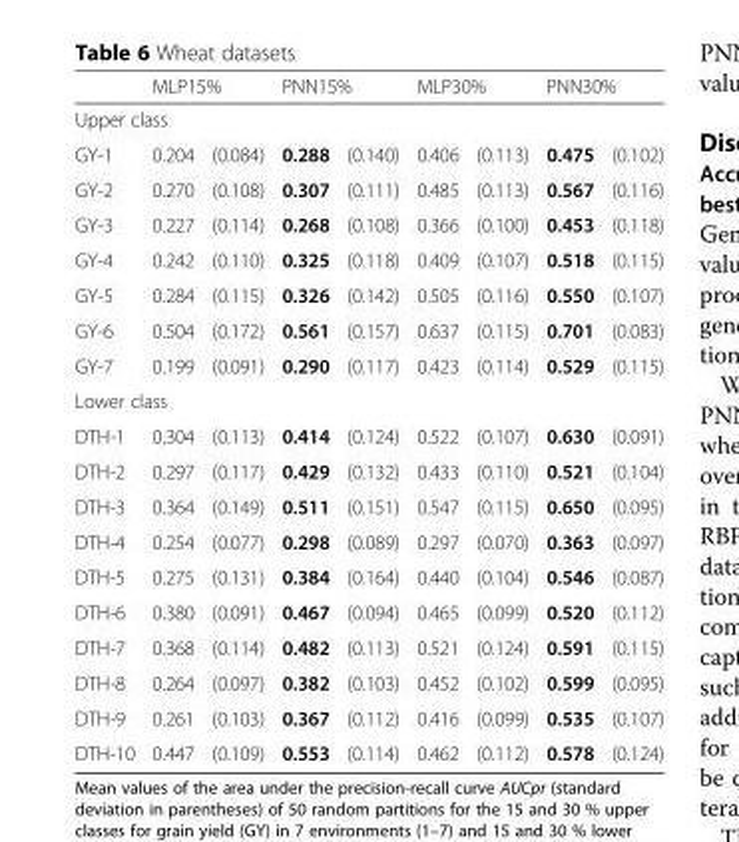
<table><thead><tr><td></td><td colspan="2">MLP15%</td><td colspan="2">PNN15%</td><td colspan="2">MLP30%</td><td colspan="2">PNN30%</td></tr><tr><td colspan="9">Upper class</td></tr><tr><td>GY-1</td><td>0.204</td><td>(0.084)</td><td>0.288</td><td>(0.140)</td><td>0.406</td><td>(0.113)</td><td>0.475</td><td>(0.102)</td></tr></thead><tbody><tr><td>GY-2</td><td>0.270</td><td>(0.108)</td><td>0.307</td><td>(0.111)</td><td>0.485</td><td>(0.113)</td><td>0.567</td><td>(0.116)</td></tr><tr><td>GY-3</td><td>0.227</td><td>(0.114)</td><td>0.268</td><td>(0.108)</td><td>0.366</td><td>(0.100)</td><td>0.453</td><td>(0.118)</td></tr><tr><td>GY-4</td><td>0.242</td><td>(0.110)</td><td>0.325</td><td>(0.118)</td><td>0.409</td><td>(0.107)</td><td>0.518</td><td>(0.115)</td></tr><tr><td>GY-5</td><td>0.284</td><td>(0.115)</td><td>0.326</td><td>(0.142)</td><td>0.505</td><td>(0.116)</td><td>0.550</td><td>(0.107)</td></tr><tr><td>GY-6</td><td>0.504</td><td>(0.172)</td><td>0.561</td><td>(0.157)</td><td>0.637</td><td>(0.115)</td><td>0.701</td><td>(0.083)</td></tr><tr><td>GY-7</td><td>0.199</td><td>(0.091)</td><td>0.290</td><td>(0.117)</td><td>0.423</td><td>(0.114)</td><td>0.529</td><td>(0.115)</td></tr><tr><td colspan="9">Lower class</td></tr><tr><td>DTH-1</td><td>0.304</td><td>(0.113)</td><td>0.414</td><td>(0.124)</td><td>0.522</td><td>(0.107)</td><td>0.630</td><td>(0.091)</td></tr><tr><td>DTH-2</td><td>0.297</td><td>(0.117)</td><td>0.429</td><td>(0.132)</td><td>0.433</td><td>(0.110)</td><td>0.521</td><td>(0.104)</td></tr><tr><td>DTH-3</td><td>0.364</td><td>(0.149)</td><td>0.511</td><td>(0.151)</td><td>0.547</td><td>(0.115)</td><td>0.650</td><td>(0.095)</td></tr><tr><td>DTH-4</td><td>0.254</td><td>(0.077)</td><td>0.298</td><td>(0.089)</td><td>0.297</td><td>(0.070)</td><td>0.363</td><td>(0.097)</td></tr><tr><td>DTH-5</td><td>0.275</td><td>(0.131)</td><td>0.384</td><td>(0.164)</td><td>0.440</td><td>(0.104)</td><td>0.546</td><td>(0.087)</td></tr><tr><td>DTH-6</td><td>0.380</td><td>(0.091)</td><td>0.467</td><td>(0.094)</td><td>0.465</td><td>(0.099)</td><td>0.520</td><td>(0.112)</td></tr><tr><td>DTH-7</td><td>0.368</td><td>(0.114)</td><td>0.482</td><td>(0.113)</td><td>0.521</td><td>(0.124)</td><td>0.591</td><td>(0.115)</td></tr><tr><td>DTH-8</td><td>0.264</td><td>(0.097)</td><td>0.382</td><td>(0.103)</td><td>0.452</td><td>(0.102)</td><td>0.599</td><td>(0.095)</td></tr><tr><td>DTH-9</td><td>0.261</td><td>(0.103)</td><td>0.367</td><td>(0.112)</td><td>0.416</td><td>(0.099)</td><td>0.535</td><td>(0.107)</td></tr><tr><td>DTH-10</td><td>0.447</td><td>(0.109)</td><td>0.553</td><td>(0.114)</td><td>0.462</td><td>(0.112)</td><td>0.578</td><td>(0.124)</td></tr></tbody></table>